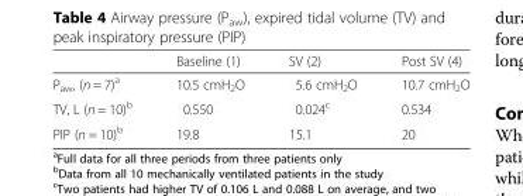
<table><thead><tr><td></td><td>Baseline (1)</td><td>SV (2)</td><td>Post SV (4)</td></tr></thead><tbody><tr><td>P<sub>aw</sub>, (n = 7)<sup>a</sup></td><td>10.5 cmH<sub>2</sub>O</td><td>5.6 cmH<sub>2</sub>O</td><td>10.7 cmH<sub>2</sub>O</td></tr><tr><td>TV, L (n = 10)<sup>b</sup></td><td>0.550</td><td>0.024<sup>c</sup></td><td>0.534</td></tr><tr><td>PIP (n = 10)<sup>b</sup></td><td>19.8</td><td>15.1</td><td>20</td></tr></tbody></table>